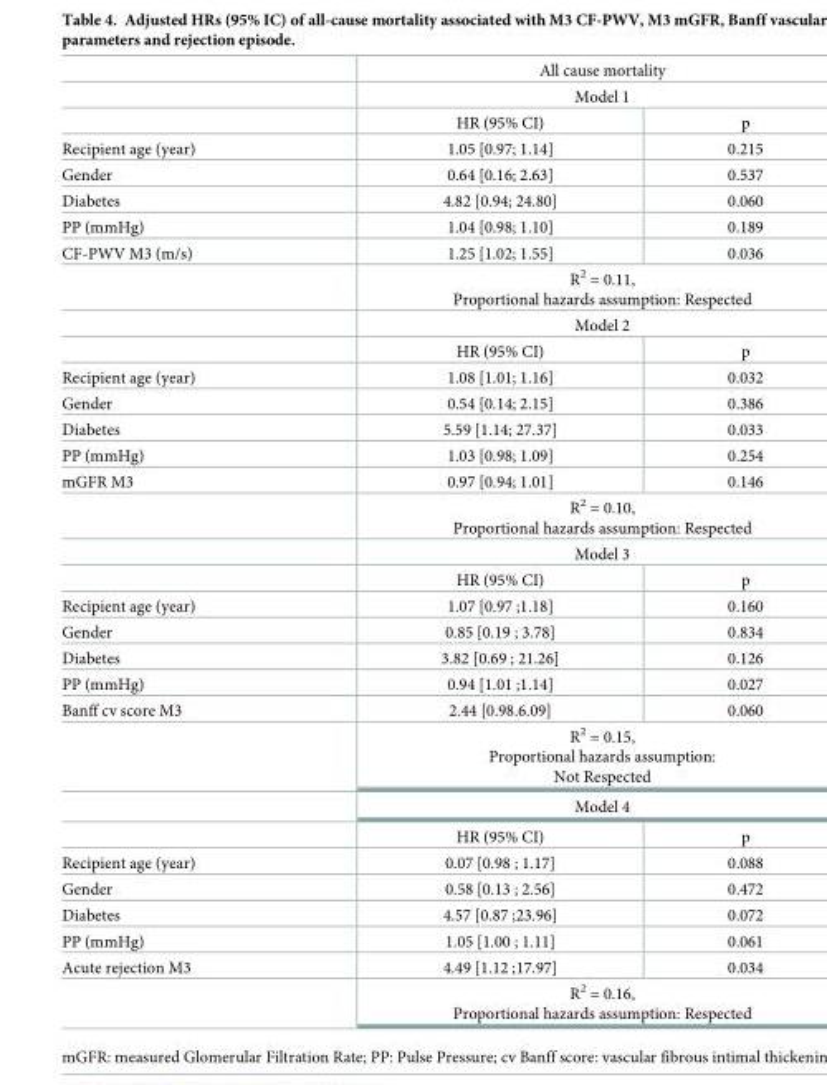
<table><thead><tr><td rowspan="3"></td><td rowspan="2" colspan="2">All cause mortality Model 1</td></tr><tr></tr><tr><td>HR (95% CI)</td><td>p</td></tr></thead><tbody><tr><td>Recipient age (year)</td><td>1.05 [0.97; 1.14]</td><td>0.215</td></tr><tr><td>Gender</td><td>0.64 [0.16; 2.63]</td><td>0.537</td></tr><tr><td>Diabetes</td><td>4.82 [0.94; 24.80]</td><td>0.060</td></tr><tr><td>PP (mmHg)</td><td>1.04 [0.98; 1.10]</td><td>0.189</td></tr><tr><td rowspan="4">CF-PWV M3 (m/s)</td><td>1.25 [1.02; 1.55]</td><td>0.036</td></tr><tr><td colspan="2">R<sup>2</sup> = 0.11, Proportional hazards assumption: Respected</td></tr><tr><td colspan="2">Model 2</td></tr><tr><td>HR (95% CI)</td><td>p</td></tr><tr><td>Recipient age (year)</td><td>1.08 [1.01; 1.16]</td><td>0.032</td></tr><tr><td>Gender</td><td>0.54 [0.14; 2.15]</td><td>0.386</td></tr><tr><td>Diabetes</td><td>5.59 [1.14; 27.37]</td><td>0.033</td></tr><tr><td>PP (mmHg)</td><td>1.03 [0.98; 1.09]</td><td>0.254</td></tr><tr><td rowspan="4">mGFR M3</td><td>0.97 [0.94; 1.01]</td><td>0.146</td></tr><tr><td colspan="2">R<sup>2</sup> = 0.10, Proportional hazards assumption: Respected</td></tr><tr><td colspan="2">Model 3</td></tr><tr><td>HR (95% CI)</td><td>p</td></tr><tr><td>Recipient age (year)</td><td>1.07 [0.97 ;1.18]</td><td>0.160</td></tr><tr><td>Gender</td><td>0.85 [0.19 ; 3.78]</td><td>0.834</td></tr><tr><td>Diabetes</td><td>3.82 [0.69 ; 21.26]</td><td>0.126</td></tr><tr><td>PP (mmHg)</td><td>0.94 [1.01 ;1.14]</td><td>0.027</td></tr><tr><td rowspan="4">Banff cv score M3</td><td>2.44 [0.98.6.09]</td><td>0.060</td></tr><tr><td colspan="2">R<sup>2</sup> = 0.15, Proportional hazards assumption: Not Respected</td></tr><tr><td colspan="2">Model 4</td></tr><tr><td>HR (95% CI)</td><td>p</td></tr><tr><td>Recipient age (year)</td><td>0.07 [0.98 ; 1.17]</td><td>0.088</td></tr><tr><td>Gender</td><td>0.58 [0.13 ; 2.56]</td><td>0.472</td></tr><tr><td>Diabetes</td><td>4.57 [0.87 ;23.96]</td><td>0.072</td></tr><tr><td>PP (mmHg)</td><td>1.05 [1.00 ; 1.11]</td><td>0.061</td></tr><tr><td rowspan="2">Acute rejection M3</td><td>4.49 [1.12 ;17.97]</td><td>0.034</td></tr><tr><td colspan="2">R<sup>2</sup> = 0.16, Proportional hazards assumption: Respected</td></tr></tbody></table>